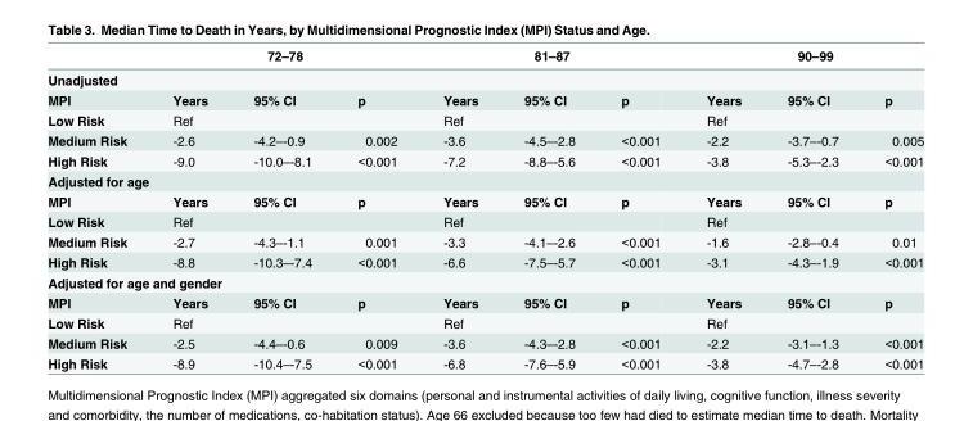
<table><thead><tr><td rowspan="3">Unadjusted MPI</td><td colspan="3">72–78</td><td colspan="3">81–87</td><td colspan="3">90–99</td></tr><tr><td colspan="2"></td><td rowspan="2">p</td><td colspan="2"></td><td rowspan="2">p</td><td colspan="2"></td><td rowspan="2">p</td></tr><tr><td>Years</td><td>95% CI</td><td>Years</td><td>95% CI</td><td>Years</td><td>95% CI</td></tr></thead><tbody><tr><td>Low Risk</td><td>Ref</td><td></td><td></td><td>Ref</td><td></td><td></td><td>Ref</td><td></td><td></td></tr><tr><td>Medium Risk</td><td>-2.6</td><td>-4.2–-0.9</td><td>0.002</td><td>-3.6</td><td>-4.5–-2.8</td><td>&lt;0.001</td><td>-2.2</td><td>-3.7–-0.7</td><td>0.005</td></tr><tr><td>High Risk</td><td>-9.0</td><td>-10.0–-8.1</td><td>&lt;0.001</td><td>-7.2</td><td>-8.8–-5.6</td><td>&lt;0.001</td><td>-3.8</td><td>-5.3–-2.3</td><td>&lt;0.001</td></tr><tr><td colspan="10">Adjusted for age</td></tr><tr><td>MPI</td><td>Years</td><td>95% CI</td><td>p</td><td>Years</td><td>95% CI</td><td>p</td><td>Years</td><td>95% CI</td><td>p</td></tr><tr><td>Low Risk</td><td>Ref</td><td></td><td></td><td>Ref</td><td></td><td></td><td>Ref</td><td></td><td></td></tr><tr><td>Medium Risk</td><td>-2.7</td><td>-4.3–-1.1</td><td>0.001</td><td>-3.3</td><td>-4.1–-2.6</td><td>&lt;0.001</td><td>-1.6</td><td>-2.8–-0.4</td><td>0.01</td></tr><tr><td>High Risk</td><td>-8.8</td><td>-10.3–-7.4</td><td>&lt;0.001</td><td>-6.6</td><td>-7.5–-5.7</td><td>&lt;0.001</td><td>-3.1</td><td>-4.3–-1.9</td><td>&lt;0.001</td></tr><tr><td colspan="10">Adjusted for age and gender</td></tr><tr><td>MPI</td><td>Years</td><td>95% CI</td><td>p</td><td>Years</td><td>95% CI</td><td>p</td><td>Years</td><td>95% CI</td><td>p</td></tr><tr><td>Low Risk</td><td>Ref</td><td></td><td></td><td>Ref</td><td></td><td></td><td>Ref</td><td></td><td></td></tr><tr><td>Medium Risk</td><td>-2.5</td><td>-4.4–-0.6</td><td>0.009</td><td>-3.6</td><td>-4.3–-2.8</td><td>&lt;0.001</td><td>-2.2</td><td>-3.1–-1.3</td><td>&lt;0.001</td></tr><tr><td>High Risk</td><td>-8.9</td><td>-10.4–-7.5</td><td>&lt;0.001</td><td>-6.8</td><td>-7.6–-5.9</td><td>&lt;0.001</td><td>-3.8</td><td>-4.7–-2.8</td><td>&lt;0.001</td></tr></tbody></table>